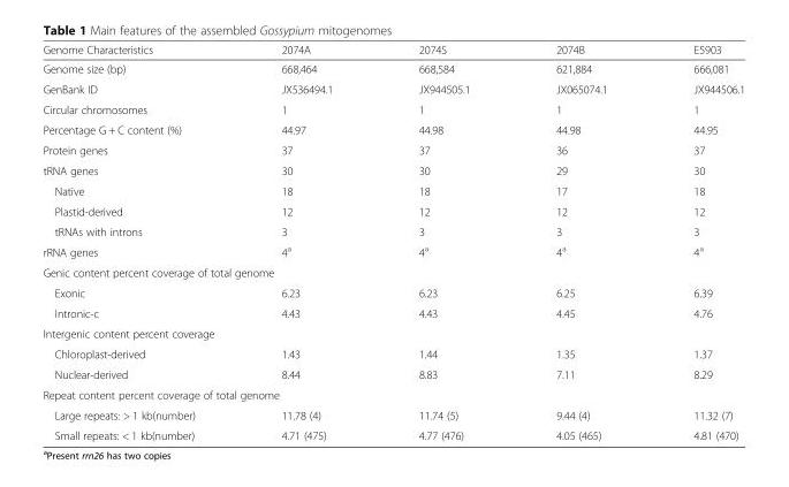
<table><thead><tr><td>Genome Characteristics</td><td>2074A</td><td>2074S</td><td>2074B</td><td>E5903</td></tr></thead><tbody><tr><td>Genome size (bp)</td><td>668,464</td><td>668,584</td><td>621,884</td><td>666,081</td></tr><tr><td>GenBank ID</td><td>JX536494.1</td><td>JX944505.1</td><td>JX065074.1</td><td>JX944506.1</td></tr><tr><td>Circular chromosomes</td><td>1</td><td>1</td><td>1</td><td>1</td></tr><tr><td>Percentage G + C content (%)</td><td>44.97</td><td>44.98</td><td>44.98</td><td>44.95</td></tr><tr><td>Protein genes</td><td>37</td><td>37</td><td>36</td><td>37</td></tr><tr><td>tRNA genes</td><td>30</td><td>30</td><td>29</td><td>30</td></tr><tr><td>Native</td><td>18</td><td>18</td><td>17</td><td>18</td></tr><tr><td>Plastid-derived</td><td>12</td><td>12</td><td>12</td><td>12</td></tr><tr><td>tRNAs with introns</td><td>3</td><td>3</td><td>3</td><td>3</td></tr><tr><td>rRNA genes</td><td>4<sup>a</sup></td><td>4<sup>a</sup></td><td>4<sup>a</sup></td><td>4<sup>a</sup></td></tr><tr><td colspan="5">Genic content percent coverage of total genome</td></tr><tr><td>Exonic</td><td>6.23</td><td>6.23</td><td>6.25</td><td>6.39</td></tr><tr><td>Intronic-c</td><td>4.43</td><td>4.43</td><td>4.45</td><td>4.76</td></tr><tr><td colspan="5">Intergenic content percent coverage</td></tr><tr><td>Chloroplast-derived</td><td>1.43</td><td>1.44</td><td>1.35</td><td>1.37</td></tr><tr><td>Nuclear-derived</td><td>8.44</td><td>8.83</td><td>7.11</td><td>8.29</td></tr><tr><td colspan="5">Repeat content percent coverage of total genome</td></tr><tr><td>Large repeats: &gt; 1 kb(number)</td><td>11.78 (4)</td><td>11.74 (5)</td><td>9.44 (4)</td><td>11.32 (7)</td></tr><tr><td>Small repeats: &lt; 1 kb(number)</td><td>4.71 (475)</td><td>4.77 (476)</td><td>4.05 (465)</td><td>4.81 (470)</td></tr></tbody></table>